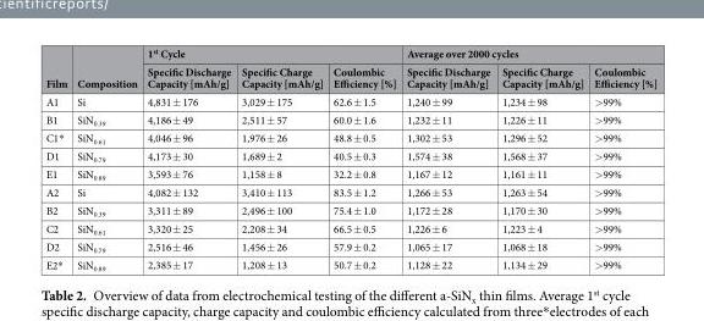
<table><thead><tr><td rowspan="2">Film</td><td rowspan="2">Composition</td><td colspan="3">1<sup>st</sup> Cycle</td><td colspan="3">Average over 2000 cycles</td></tr><tr><td>Specific Discharge Capacity [mAh/g]</td><td>Specific Charge Capacity [mAh/g]</td><td>Coulombic Efficiency [%]</td><td>Specific Discharge Capacity [mAh/g]</td><td>Specific Charge Capacity [mAh/g]</td><td>Coulombic Efficiency [%]</td></tr></thead><tbody><tr><td>A1</td><td>Si</td><td>4,831 ± 176</td><td>3,029 ± 175</td><td>62.6 ± 1.5</td><td>1,240 ± 99</td><td>1,234 ± 98</td><td>&gt;99%</td></tr><tr><td>B1</td><td>SiN<sub>0.39</sub></td><td>4,186 ± 49</td><td>2,511 ± 57</td><td>60.0 ± 1.6</td><td>1,232 ± 11</td><td>1,226 ± 11</td><td>&gt;99%</td></tr><tr><td>C1*</td><td>SiN<sub>0.61</sub></td><td>4,046 ± 96</td><td>1,976 ± 26</td><td>48.8 ± 0.5</td><td>1,302 ± 53</td><td>1,296 ± 52</td><td>&gt;99%</td></tr><tr><td>D1</td><td>SiN<sub>0.79</sub></td><td>4,173 ± 30</td><td>1,689 ± 2</td><td>40.5 ± 0.3</td><td>1,574 ± 38</td><td>1,568 ± 37</td><td>&gt;99%</td></tr><tr><td>E1</td><td>SiN<sub>0.89</sub></td><td>3,593 ± 76</td><td>1,158 ± 8</td><td>32.2 ± 0.8</td><td>1,167 ± 12</td><td>1,161 ± 11</td><td>&gt;99%</td></tr><tr><td>A2</td><td>Si</td><td>4,082 ± 132</td><td>3,410 ± 113</td><td>83.5 ± 1.2</td><td>1,266 ± 53</td><td>1,263 ± 54</td><td>&gt;99%</td></tr><tr><td>B2</td><td>SiN<sub>0.39</sub></td><td>3,311 ± 89</td><td>2,496 ± 100</td><td>75.4 ± 1.0</td><td>1,172 ± 28</td><td>1,170 ± 30</td><td>&gt;99%</td></tr><tr><td>C2</td><td>SiN<sub>0.61</sub></td><td>3,320 ± 25</td><td>2,208 ± 34</td><td>66.5 ± 0.5</td><td>1,226 ± 6</td><td>1,223 ± 4</td><td>&gt;99%</td></tr><tr><td>D2</td><td>SiN<sub>0.79</sub></td><td>2,516 ± 46</td><td>1,456 ± 26</td><td>57.9 ± 0.2</td><td>1,065 ± 17</td><td>1,068 ± 18</td><td>&gt;99%</td></tr><tr><td>E2*</td><td>SiN<sub>0.89</sub></td><td>2,385 ± 17</td><td>1,208 ± 13</td><td>50.7 ± 0.2</td><td>1,128 ± 22</td><td>1,134 ± 29</td><td>&gt;99%</td></tr></tbody></table>